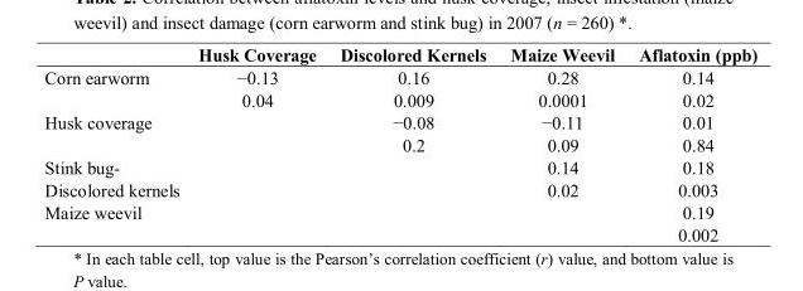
<table><thead><tr><td></td><td>Husk Coverage</td><td>Discolored Kernels</td><td>Maize Weevil</td><td>Aflatoxin (ppb)</td></tr></thead><tbody><tr><td rowspan="2">Corn earworm</td><td>−0.13</td><td>0.16</td><td>0.28</td><td>0.14</td></tr><tr><td>0.04</td><td>0.009</td><td>0.0001</td><td>0.02</td></tr><tr><td rowspan="2">Husk coverage</td><td></td><td>−0.08</td><td>−0.11</td><td>0.01</td></tr><tr><td></td><td>0.2</td><td>0.09</td><td>0.84</td></tr><tr><td>Stink bug-</td><td></td><td></td><td>0.14</td><td>0.18</td></tr><tr><td>Discolored kernels</td><td></td><td></td><td>0.02</td><td>0.003</td></tr><tr><td rowspan="2">Maize weevil</td><td></td><td></td><td></td><td>0.19</td></tr><tr><td></td><td></td><td></td><td>0.002</td></tr></tbody></table>